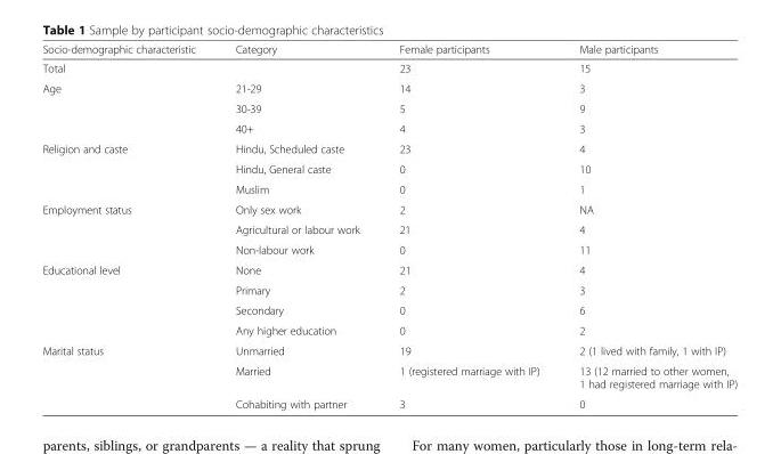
<table><thead><tr><td>Socio-demographic characteristic</td><td>Category</td><td>Female participants</td><td>Male participants</td></tr></thead><tbody><tr><td>Total</td><td></td><td>23</td><td>15</td></tr><tr><td rowspan="3">Age</td><td>21-29</td><td>14</td><td>3</td></tr><tr><td>30-39</td><td>5</td><td>9</td></tr><tr><td>40+</td><td>4</td><td>3</td></tr><tr><td rowspan="3">Religion and caste</td><td>Hindu, Scheduled caste</td><td>23</td><td>4</td></tr><tr><td>Hindu, General caste</td><td>0</td><td>10</td></tr><tr><td>Muslim</td><td>0</td><td>1</td></tr><tr><td rowspan="3">Employment status</td><td>Only sex work</td><td>2</td><td>NA</td></tr><tr><td>Agricultural or labour work</td><td>21</td><td>4</td></tr><tr><td>Non-labour work</td><td>0</td><td>11</td></tr><tr><td rowspan="4">Educational level</td><td>None</td><td>21</td><td>4</td></tr><tr><td>Primary</td><td>2</td><td>3</td></tr><tr><td>Secondary</td><td>0</td><td>6</td></tr><tr><td>Any higher education</td><td>0</td><td>2</td></tr><tr><td rowspan="3">Marital status</td><td>Unmarried</td><td>19</td><td>2 (1 lived with family, 1 with IP)</td></tr><tr><td>Married</td><td>1 (registered marriage with IP)</td><td>13 (12 married to other women, 1 had registered marriage with IP)</td></tr><tr><td>Cohabiting with partner</td><td>3</td><td>0</td></tr></tbody></table>